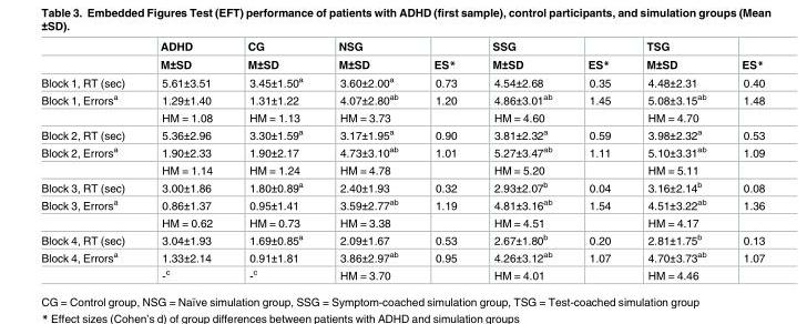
<table><thead><tr><td rowspan="2"></td><td rowspan="2">ADHD M±SD</td><td rowspan="2">CG M±SD</td><td rowspan="2">NSG M±SD</td><td rowspan="2">ES*</td><td rowspan="2">SSG M±SD</td><td rowspan="2">ES*</td><td rowspan="2">TSG M±SD</td><td rowspan="2">ES*</td></tr><tr></tr></thead><tbody><tr><td>Block 1, RT (sec)</td><td>5.61±3.51</td><td>3.45±1.50<sup>a</sup></td><td>3.60±2.00<sup>a</sup></td><td>0.73</td><td>4.54±2.68</td><td>0.35</td><td>4.48±2.31</td><td>0.40</td></tr><tr><td rowspan="2">Block 1, Errors<sup>a</sup></td><td>1.29±1.40</td><td>1.31±1.22</td><td>4.07±2.80<sup>ab</sup></td><td>1.20</td><td>4.86±3.01<sup>ab</sup></td><td>1.45</td><td>5.08±3.15<sup>ab</sup></td><td>1.48</td></tr><tr><td>HM = 1.08</td><td>HM = 1.13</td><td>HM = 3.73</td><td></td><td>HM = 4.60</td><td></td><td>HM = 4.70</td><td></td></tr><tr><td>Block 2, RT (sec)</td><td>5.36±2.96</td><td>3.30±1.59<sup>a</sup></td><td>3.17±1.95<sup>a</sup></td><td>0.90</td><td>3.81±2.32<sup>a</sup></td><td>0.59</td><td>3.98±2.32<sup>a</sup></td><td>0.53</td></tr><tr><td rowspan="2">Block 2, Errors<sup>a</sup></td><td>1.90±2.33</td><td>1.90±2.17</td><td>4.73±3.10<sup>ab</sup></td><td>1.01</td><td>5.27±3.47<sup>ab</sup></td><td>1.11</td><td>5.10±3.31<sup>ab</sup></td><td>1.09</td></tr><tr><td>HM = 1.14</td><td>HM = 1.24</td><td>HM = 4.78</td><td></td><td>HM = 5.20</td><td></td><td>HM = 5.11</td><td></td></tr><tr><td>Block 3, RT (sec)</td><td>3.00±1.86</td><td>1.80±0.89<sup>a</sup></td><td>2.40±1.93</td><td>0.32</td><td>2.93±2.07<sup>b</sup></td><td>0.04</td><td>3.16±2.14<sup>b</sup></td><td>0.08</td></tr><tr><td rowspan="2">Block 3, Errors<sup>a</sup></td><td>0.86±1.37</td><td>0.95±1.41</td><td>3.59±2.77<sup>ab</sup></td><td>1.19</td><td>4.81±3.16<sup>ab</sup></td><td>1.54</td><td>4.51±3.22<sup>ab</sup></td><td>1.36</td></tr><tr><td>HM = 0.62</td><td>HM = 0.73</td><td>HM = 3.38</td><td></td><td>HM = 4.51</td><td></td><td>HM = 4.17</td><td></td></tr><tr><td>Block 4, RT (sec)</td><td>3.04±1.93</td><td>1.69±0.85<sup>a</sup></td><td>2.09±1.67</td><td>0.53</td><td>2.67±1.80<sup>b</sup></td><td>0.20</td><td>2.81±1.75<sup>b</sup></td><td>0.13</td></tr><tr><td rowspan="2">Block 4, Errors<sup>a</sup></td><td>1.33±2.14</td><td>0.91±1.81</td><td>3.86±2.97<sup>ab</sup></td><td>0.95</td><td>4.26±3.12<sup>ab</sup></td><td>1.07</td><td>4.70±3.73<sup>ab</sup></td><td>1.07</td></tr><tr><td>-<sup>c</sup></td><td>-<sup>c</sup></td><td>HM = 3.70</td><td></td><td>HM = 4.01</td><td></td><td>HM = 4.46</td><td></td></tr></tbody></table>